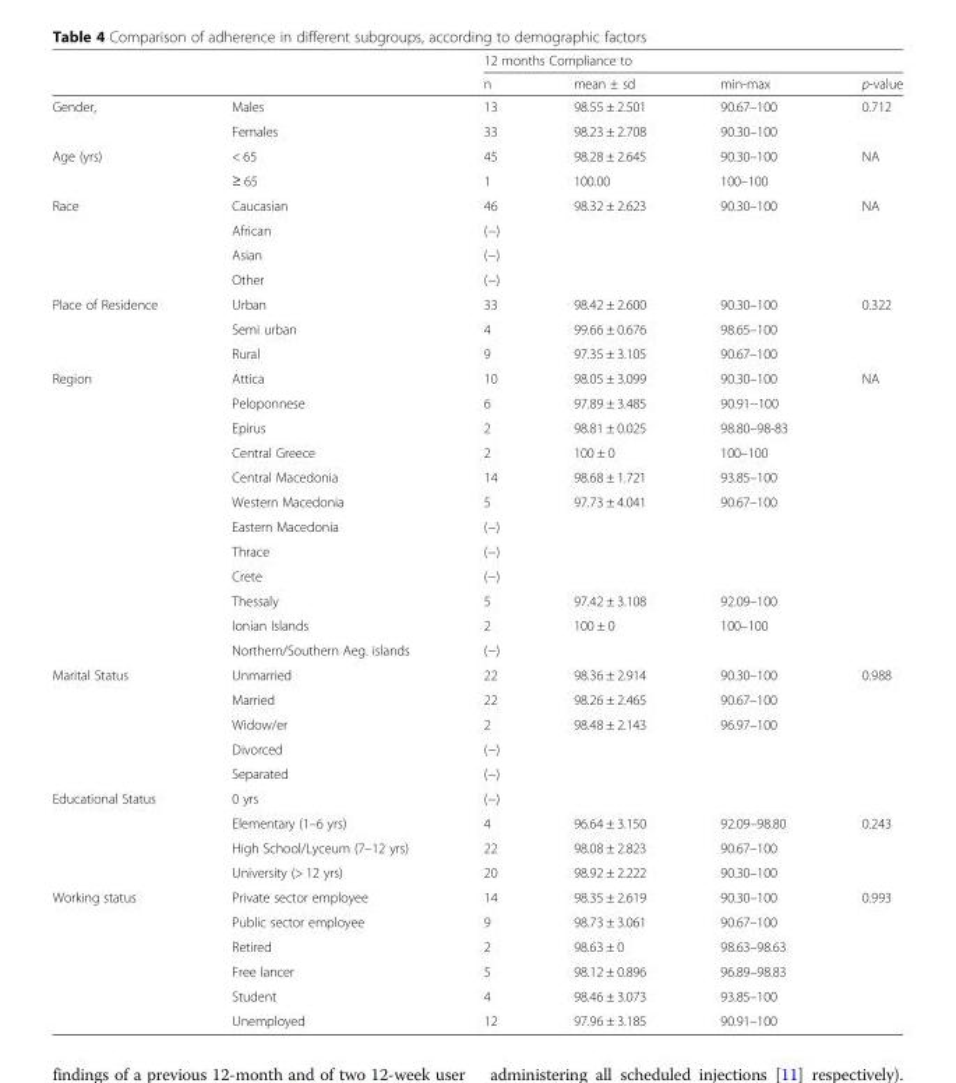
<table><thead><tr><td rowspan="2"></td><td rowspan="2"></td><td colspan="4">12 months Compliance to</td></tr><tr><td>n</td><td>mean ± sd</td><td>min-max</td><td>p-value</td></tr></thead><tbody><tr><td rowspan="2">Gender,</td><td>Males</td><td>13</td><td>98.55 ± 2.501</td><td>90.67–100</td><td>0.712</td></tr><tr><td>Females</td><td>33</td><td>98.23 ± 2.708</td><td>90.30–100</td><td></td></tr><tr><td rowspan="2">Age (yrs)</td><td>&lt; 65</td><td>45</td><td>98.28 ± 2.645</td><td>90.30–100</td><td>NA</td></tr><tr><td>≥ 65</td><td>1</td><td>100.00</td><td>100–100</td><td></td></tr><tr><td rowspan="4">Race</td><td>Caucasian</td><td>46</td><td>98.32 ± 2.623</td><td>90.30–100</td><td>NA</td></tr><tr><td>African</td><td>(−)</td><td></td><td></td><td></td></tr><tr><td>Asian</td><td>(−)</td><td></td><td></td><td></td></tr><tr><td>Other</td><td>(−)</td><td></td><td></td><td></td></tr><tr><td rowspan="3">Place of Residence</td><td>Urban</td><td>33</td><td>98.42 ± 2.600</td><td>90.30–100</td><td>0.322</td></tr><tr><td>Semi urban</td><td>4</td><td>99.66 ± 0.676</td><td>98.65–100</td><td></td></tr><tr><td>Rural</td><td>9</td><td>97.35 ± 3.105</td><td>90.67–100</td><td></td></tr><tr><td rowspan="12">Region</td><td>Attica</td><td>10</td><td>98.05 ± 3.099</td><td>90.30–100</td><td>NA</td></tr><tr><td>Peloponnese</td><td>6</td><td>97.89 ± 3.485</td><td>90.91--100</td><td></td></tr><tr><td>Epirus</td><td>2</td><td>98.81 ± 0.025</td><td>98.80–98-83</td><td></td></tr><tr><td>Central Greece</td><td>2</td><td>100 ± 0</td><td>100–100</td><td></td></tr><tr><td>Central Macedonia</td><td>14</td><td>98.68 ± 1.721</td><td>93.85–100</td><td></td></tr><tr><td>Western Macedonia</td><td>5</td><td>97.73 ± 4.041</td><td>90.67–100</td><td></td></tr><tr><td>Eastern Macedonia</td><td>(−)</td><td></td><td></td><td></td></tr><tr><td>Thrace</td><td>(−)</td><td></td><td></td><td></td></tr><tr><td>Crete</td><td>(−)</td><td></td><td></td><td></td></tr><tr><td>Thessaly</td><td>5</td><td>97.42 ± 3.108</td><td>92.09–100</td><td></td></tr><tr><td>Ionian Islands</td><td>2</td><td>100 ± 0</td><td>100–100</td><td></td></tr><tr><td>Northern/Southern Aeg. islands</td><td>(−)</td><td></td><td></td><td></td></tr><tr><td rowspan="5">Marital Status</td><td>Unmarried</td><td>22</td><td>98.36 ± 2.914</td><td>90.30–100</td><td>0.988</td></tr><tr><td>Married</td><td>22</td><td>98.26 ± 2.465</td><td>90.67–100</td><td></td></tr><tr><td>Widow/er</td><td>2</td><td>98.48 ± 2.143</td><td>96.97–100</td><td></td></tr><tr><td>Divorced</td><td>(−)</td><td></td><td></td><td></td></tr><tr><td>Separated</td><td>(−)</td><td></td><td></td><td></td></tr><tr><td rowspan="4">Educational Status</td><td>0 yrs</td><td>(−)</td><td></td><td></td><td></td></tr><tr><td>Elementary (1–6 yrs)</td><td>4</td><td>96.64 ± 3.150</td><td>92.09–98.80</td><td>0.243</td></tr><tr><td>High School/Lyceum (7–12 yrs)</td><td>22</td><td>98.08 ± 2.823</td><td>90.67–100</td><td></td></tr><tr><td>University (&gt; 12 yrs)</td><td>20</td><td>98.92 ± 2.222</td><td>90.30–100</td><td></td></tr><tr><td rowspan="6">Working status</td><td>Private sector employee</td><td>14</td><td>98.35 ± 2.619</td><td>90.30–100</td><td>0.993</td></tr><tr><td>Public sector employee</td><td>9</td><td>98.73 ± 3.061</td><td>90.67–100</td><td></td></tr><tr><td>Retired</td><td>2</td><td>98.63 ± 0</td><td>98.63–98.63</td><td></td></tr><tr><td>Free lancer</td><td>5</td><td>98.12 ± 0.896</td><td>96.89–98.83</td><td></td></tr><tr><td>Student</td><td>4</td><td>98.46 ± 3.073</td><td>93.85–100</td><td></td></tr><tr><td>Unemployed</td><td>12</td><td>97.96 ± 3.185</td><td>90.91–100</td><td></td></tr></tbody></table>